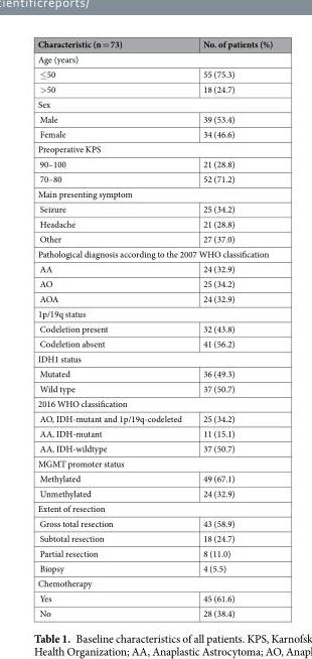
<table><thead><tr><td>Characteristic (n = 73)</td><td>No. of patients (%)</td></tr></thead><tbody><tr><td colspan="2">Age (years)</td></tr><tr><td>≤50</td><td>55 (75.3)</td></tr><tr><td>&gt;50</td><td>18 (24.7)</td></tr><tr><td colspan="2">Sex</td></tr><tr><td>Male</td><td>39 (53.4)</td></tr><tr><td>Female</td><td>34 (46.6)</td></tr><tr><td colspan="2">Preoperative KPS</td></tr><tr><td>90–100</td><td>21 (28.8)</td></tr><tr><td>70–80</td><td>52 (71.2)</td></tr><tr><td colspan="2">Main presenting symptom</td></tr><tr><td>Seizure</td><td>25 (34.2)</td></tr><tr><td>Headache</td><td>21 (28.8)</td></tr><tr><td>Other</td><td>27 (37.0)</td></tr><tr><td colspan="2">Pathological diagnosis according to the 2007 WHO classification</td></tr><tr><td>AA</td><td>24 (32.9)</td></tr><tr><td>AO</td><td>25 (34.2)</td></tr><tr><td>AOA</td><td>24 (32.9)</td></tr><tr><td colspan="2">1p/19q status</td></tr><tr><td>Codeletion present</td><td>32 (43.8)</td></tr><tr><td>Codeletion absent</td><td>41 (56.2)</td></tr><tr><td colspan="2">IDH1 status</td></tr><tr><td>Mutated</td><td>36 (49.3)</td></tr><tr><td>Wild type</td><td>37 (50.7)</td></tr><tr><td colspan="2">2016 WHO classification</td></tr><tr><td>AO, IDH-mutant and 1p/19q-codeleted</td><td>25 (34.2)</td></tr><tr><td>AA, IDH-mutant</td><td>11 (15.1)</td></tr><tr><td>AA, IDH-wildtype</td><td>37 (50.7)</td></tr><tr><td colspan="2">MGMT promoter status</td></tr><tr><td>Methylated</td><td>49 (67.1)</td></tr><tr><td>Unmethylated</td><td>24 (32.9)</td></tr><tr><td colspan="2">Extent of resection</td></tr><tr><td>Gross total resection</td><td>43 (58.9)</td></tr><tr><td>Subtotal resection</td><td>18 (24.7)</td></tr><tr><td>Partial resection</td><td>8 (11.0)</td></tr><tr><td>Biopsy</td><td>4 (5.5)</td></tr><tr><td colspan="2">Chemotherapy</td></tr><tr><td>Yes</td><td>45 (61.6)</td></tr><tr><td>No</td><td>28 (38.4)</td></tr></tbody></table>